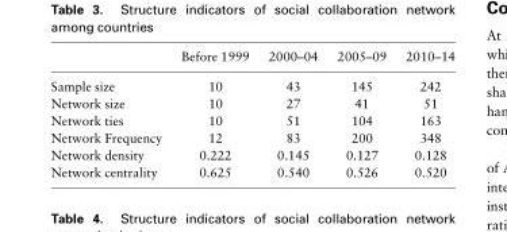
<table><thead><tr><td></td><td>Before 1999</td><td>2000–04</td><td>2005–09</td><td>2010–14</td></tr></thead><tbody><tr><td>Sample size</td><td>10</td><td>43</td><td>145</td><td>242</td></tr><tr><td>Network size</td><td>10</td><td>27</td><td>41</td><td>51</td></tr><tr><td>Network ties</td><td>10</td><td>51</td><td>104</td><td>163</td></tr><tr><td>Network Frequency</td><td>12</td><td>83</td><td>200</td><td>348</td></tr><tr><td>Network density</td><td>0.222</td><td>0.145</td><td>0.127</td><td>0.128</td></tr><tr><td>Network centrality</td><td>0.625</td><td>0.540</td><td>0.526</td><td>0.520</td></tr></tbody></table>